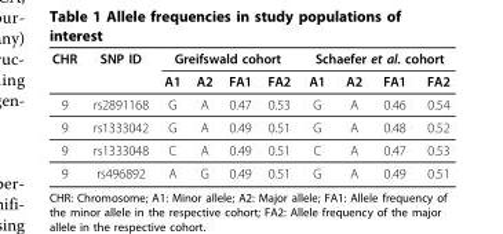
<table><thead><tr><td rowspan="2">CHR</td><td rowspan="2">SNP ID</td><td colspan="4">Greifswald cohort</td><td colspan="4">Schaefer et al. cohort</td></tr><tr><td>A1</td><td>A2</td><td>FA1</td><td>FA2</td><td>A1</td><td>A2</td><td>FA1</td><td>FA2</td></tr></thead><tbody><tr><td>9</td><td>rs2891168</td><td>G</td><td>A</td><td>0.47</td><td>0.53</td><td>G</td><td>A</td><td>0.46</td><td>0.54</td></tr><tr><td>9</td><td>rs1333042</td><td>G</td><td>A</td><td>0.49</td><td>0.51</td><td>G</td><td>A</td><td>0.48</td><td>0.52</td></tr><tr><td>9</td><td>rs1333048</td><td>C</td><td>A</td><td>0.49</td><td>0.51</td><td>C</td><td>A</td><td>0.47</td><td>0.53</td></tr><tr><td>9</td><td>rs496892</td><td>A</td><td>G</td><td>0.49</td><td>0.51</td><td>G</td><td>A</td><td>0.49</td><td>0.51</td></tr></tbody></table>